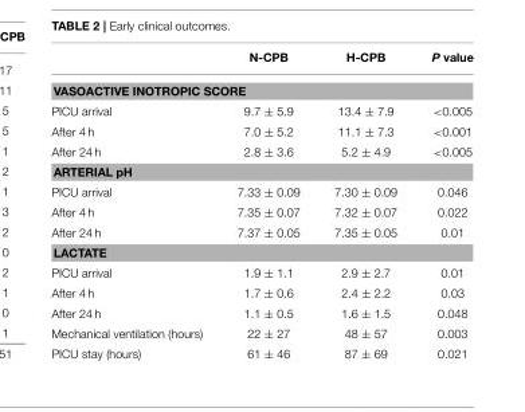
<table><thead><tr><td></td><td>N-CPB</td><td>H-CPB</td><td>P value</td></tr></thead><tbody><tr><td colspan="4">VASOACTIVE INOTROPIC SCORE</td></tr><tr><td>PICU arrival</td><td>9.7 ± 5.9</td><td>13.4 ± 7.9</td><td>&lt;0.005</td></tr><tr><td>After 4 h</td><td>7.0 ± 5.2</td><td>11.1 ± 7.3</td><td>&lt;0.001</td></tr><tr><td>After 24 h</td><td>2.8 ± 3.6</td><td>5.2 ± 4.9</td><td>&lt;0.005</td></tr><tr><td colspan="4">ARTERIAL pH</td></tr><tr><td>PICU arrival</td><td>7.33 ± 0.09</td><td>7.30 ± 0.09</td><td>0.046</td></tr><tr><td>After 4 h</td><td>7.35 ± 0.07</td><td>7.32 ± 0.07</td><td>0.022</td></tr><tr><td>After 24 h</td><td>7.37 ± 0.05</td><td>7.35 ± 0.05</td><td>0.01</td></tr><tr><td colspan="4">LACTATE</td></tr><tr><td>PICU arrival</td><td>1.9 ± 1.1</td><td>2.9 ± 2.7</td><td>0.01</td></tr><tr><td>After 4 h</td><td>1.7 ± 0.6</td><td>2.4 ± 2.2</td><td>0.03</td></tr><tr><td>After 24 h</td><td>1.1 ± 0.5</td><td>1.6 ± 1.5</td><td>0.048</td></tr><tr><td>Mechanical ventilation (hours)</td><td>22 ± 27</td><td>48 ± 57</td><td>0.003</td></tr><tr><td>PICU stay (hours)</td><td>61 ± 46</td><td>87 ± 69</td><td>0.021</td></tr></tbody></table>